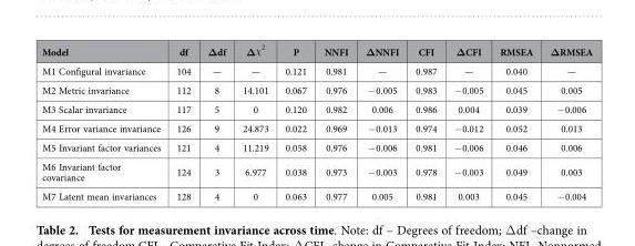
<table><thead><tr><td>Model</td><td>df</td><td>Δdf</td><td>Δχ2</td><td>P</td><td>NNFI</td><td>ΔNNFI</td><td>CFI</td><td>ΔCFI</td><td>RMSEA</td><td>ΔRMSEA</td></tr></thead><tbody><tr><td>M1 Configural invariance</td><td>104</td><td>—</td><td>—</td><td>0.121</td><td>0.981</td><td>—</td><td>0.987</td><td>—</td><td>0.040</td><td>—</td></tr><tr><td>M2 Metric invariance</td><td>112</td><td>8</td><td>14.101</td><td>0.067</td><td>0.976</td><td>− 0.005</td><td>0.983</td><td>− 0.005</td><td>0.045</td><td>0.005</td></tr><tr><td>M3 Scalar invariance</td><td>117</td><td>5</td><td>0</td><td>0.120</td><td>0.982</td><td>0.006</td><td>0.986</td><td>0.004</td><td>0.039</td><td>− 0.006</td></tr><tr><td>M4 Error variance invariance</td><td>126</td><td>9</td><td>24.873</td><td>0.022</td><td>0.969</td><td>− 0.013</td><td>0.974</td><td>− 0.012</td><td>0.052</td><td>0.013</td></tr><tr><td>M5 Invariant factor variances</td><td>121</td><td>4</td><td>11.219</td><td>0.058</td><td>0.976</td><td>− 0.006</td><td>0.981</td><td>− 0.006</td><td>0.046</td><td>0.006</td></tr><tr><td>M6 Invariant factor covariance</td><td>124</td><td>3</td><td>6.977</td><td>0.038</td><td>0.973</td><td>− 0.003</td><td>0.978</td><td>− 0.003</td><td>0.049</td><td>0.003</td></tr><tr><td>M7 Latent mean invariances</td><td>128</td><td>4</td><td>0</td><td>0.063</td><td>0.977</td><td>0.005</td><td>0.981</td><td>0.003</td><td>0.045</td><td>− 0.004</td></tr></tbody></table>